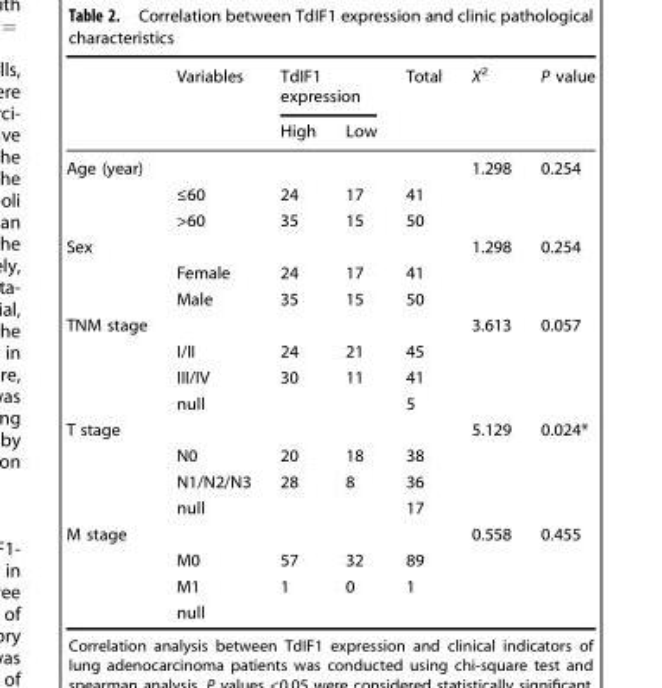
<table><thead><tr><td rowspan="2"></td><td rowspan="2">Variables</td><td colspan="2">TdIF1 expression</td><td rowspan="2">Total</td><td rowspan="2">Χ<sup>2</sup></td><td rowspan="2">P value</td></tr><tr><td>High</td><td>Low</td></tr></thead><tbody><tr><td rowspan="3">Age (year)</td><td></td><td></td><td></td><td></td><td>1.298</td><td>0.254</td></tr><tr><td>≤60</td><td>24</td><td>17</td><td>41</td><td></td><td></td></tr><tr><td>&gt;60</td><td>35</td><td>15</td><td>50</td><td></td><td></td></tr><tr><td rowspan="3">Sex</td><td></td><td></td><td></td><td></td><td>1.298</td><td>0.254</td></tr><tr><td>Female</td><td>24</td><td>17</td><td>41</td><td></td><td></td></tr><tr><td>Male</td><td>35</td><td>15</td><td>50</td><td></td><td></td></tr><tr><td rowspan="4">TNM stage</td><td></td><td></td><td></td><td></td><td>3.613</td><td>0.057</td></tr><tr><td>I/II</td><td>24</td><td>21</td><td>45</td><td></td><td></td></tr><tr><td>III/IV</td><td>30</td><td>11</td><td>41</td><td></td><td></td></tr><tr><td>null</td><td></td><td></td><td>5</td><td></td><td></td></tr><tr><td rowspan="4">T stage</td><td></td><td></td><td></td><td></td><td>5.129</td><td>0.024*</td></tr><tr><td>N0</td><td>20</td><td>18</td><td>38</td><td></td><td></td></tr><tr><td>N1/N2/N3</td><td>28</td><td>8</td><td>36</td><td></td><td></td></tr><tr><td>null</td><td></td><td></td><td>17</td><td></td><td></td></tr><tr><td rowspan="4">M stage</td><td></td><td></td><td></td><td></td><td>0.558</td><td>0.455</td></tr><tr><td>M0</td><td>57</td><td>32</td><td>89</td><td></td><td></td></tr><tr><td>M1</td><td>1</td><td>0</td><td>1</td><td></td><td></td></tr><tr><td>null</td><td></td><td></td><td></td><td></td><td></td></tr></tbody></table>